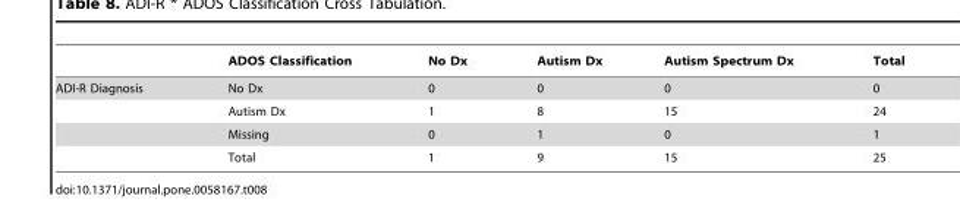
<table><thead><tr><td></td><td>ADOS Classification</td><td>No Dx</td><td>Autism Dx</td><td>Autism Spectrum Dx</td><td>Total</td></tr></thead><tbody><tr><td rowspan="4">ADI-R Diagnosis</td><td>No Dx</td><td>0</td><td>0</td><td>0</td><td>0</td></tr><tr><td>Autism Dx</td><td>1</td><td>8</td><td>15</td><td>24</td></tr><tr><td>Missing</td><td>0</td><td>1</td><td>0</td><td>1</td></tr><tr><td>Total</td><td>1</td><td>9</td><td>15</td><td>25</td></tr></tbody></table>